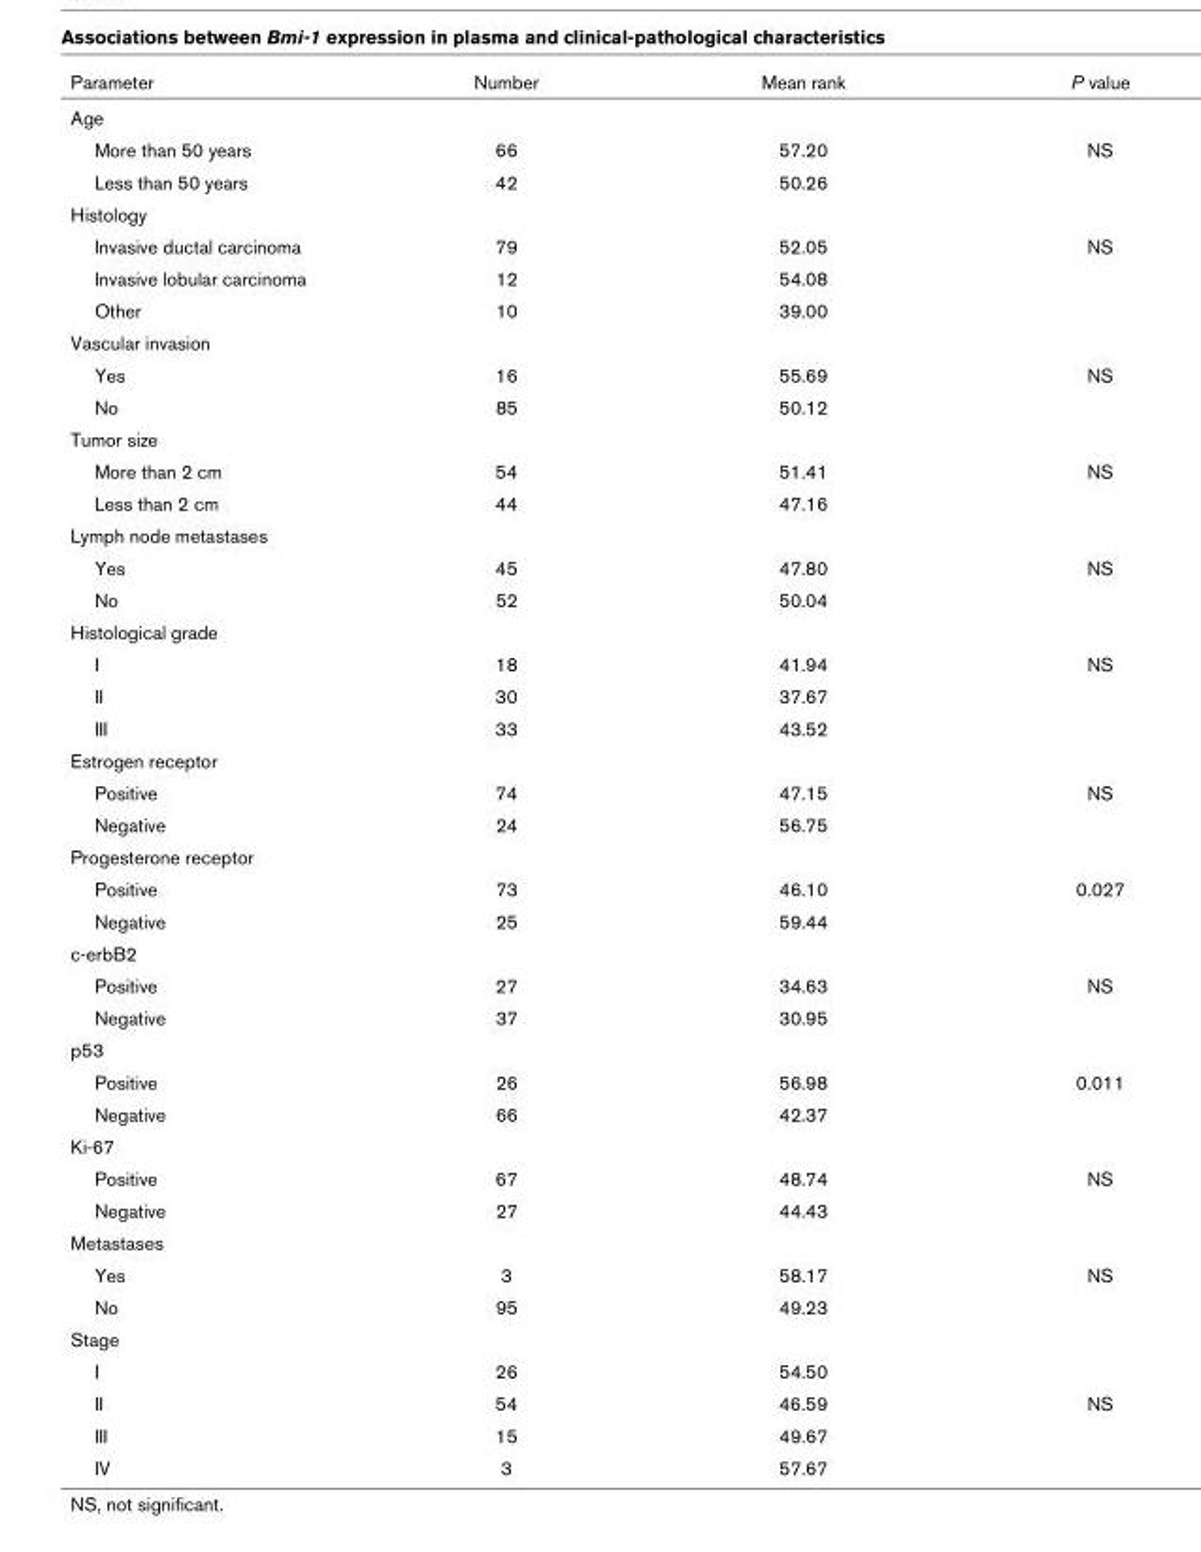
<table><thead><tr><td>Parameter</td><td>Number</td><td>Mean rank</td><td>P value</td></tr></thead><tbody><tr><td colspan="4">Age</td></tr><tr><td>More than 50 years</td><td>66</td><td>57.20</td><td>NS</td></tr><tr><td>Less than 50 years</td><td>42</td><td>50.26</td><td></td></tr><tr><td colspan="4">Histology</td></tr><tr><td>Invasive ductal carcinoma</td><td>79</td><td>52.05</td><td>NS</td></tr><tr><td>Invasive lobular carcinoma</td><td>12</td><td>54.08</td><td></td></tr><tr><td>Other</td><td>10</td><td>39.00</td><td></td></tr><tr><td colspan="4">Vascular invasion</td></tr><tr><td>Yes</td><td>16</td><td>55.69</td><td>NS</td></tr><tr><td>No</td><td>85</td><td>50.12</td><td></td></tr><tr><td colspan="4">Tumor size</td></tr><tr><td>More than 2 cm</td><td>54</td><td>51.41</td><td>NS</td></tr><tr><td>Less than 2 cm</td><td>44</td><td>47.16</td><td></td></tr><tr><td colspan="4">Lymph node metastases</td></tr><tr><td>Yes</td><td>45</td><td>47.80</td><td>NS</td></tr><tr><td>No</td><td>52</td><td>50.04</td><td></td></tr><tr><td colspan="4">Histological grade</td></tr><tr><td>I</td><td>18</td><td>41.94</td><td>NS</td></tr><tr><td>II</td><td>30</td><td>37.67</td><td></td></tr><tr><td>III</td><td>33</td><td>43.52</td><td></td></tr><tr><td colspan="4">Estrogen receptor</td></tr><tr><td>Positive</td><td>74</td><td>47.15</td><td>NS</td></tr><tr><td>Negative</td><td>24</td><td>56.75</td><td></td></tr><tr><td colspan="4">Progesterone receptor</td></tr><tr><td>Positive</td><td>73</td><td>46.10</td><td>0.027</td></tr><tr><td>Negative</td><td>25</td><td>59.44</td><td></td></tr><tr><td colspan="4">c-erbB2</td></tr><tr><td>Positive</td><td>27</td><td>34.63</td><td>NS</td></tr><tr><td>Negative</td><td>37</td><td>30.95</td><td></td></tr><tr><td colspan="4">p53</td></tr><tr><td>Positive</td><td>26</td><td>56.98</td><td>0.011</td></tr><tr><td>Negative</td><td>66</td><td>42.37</td><td></td></tr><tr><td colspan="4">Ki-67</td></tr><tr><td>Positive</td><td>67</td><td>48.74</td><td>NS</td></tr><tr><td>Negative</td><td>27</td><td>44.43</td><td></td></tr><tr><td colspan="4">Metastases</td></tr><tr><td>Yes</td><td>3</td><td>58.17</td><td>NS</td></tr><tr><td>No</td><td>95</td><td>49.23</td><td></td></tr><tr><td colspan="4">Stage</td></tr><tr><td>I</td><td>26</td><td>54.50</td><td></td></tr><tr><td>II</td><td>54</td><td>46.59</td><td>NS</td></tr><tr><td>III</td><td>15</td><td>49.67</td><td></td></tr><tr><td>IV</td><td>3</td><td>57.67</td><td></td></tr></tbody></table>